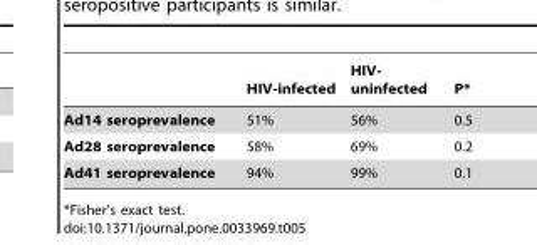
<table><thead><tr><td></td><td>HIV-infected</td><td>HIV- uninfected</td><td>P*</td></tr></thead><tbody><tr><td>Ad14 seroprevalence</td><td>51%</td><td>56%</td><td>0.5</td></tr><tr><td>Ad28 seroprevalence</td><td>58%</td><td>69%</td><td>0.2</td></tr><tr><td>Ad41 seroprevalence</td><td>94%</td><td>99%</td><td>0.1</td></tr></tbody></table>